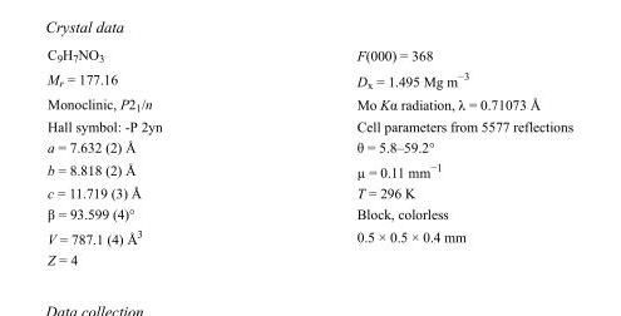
<table><tbody><tr><td>C<sub>9</sub>H<sub>7</sub>NO<sub>3</sub></td><td>F(000) = 368</td></tr><tr><td>M<sub>r</sub> = 177.16</td><td>D<sub>x</sub> = 1.495 Mg m<sup>−3</sup></td></tr><tr><td>Monoclinic, P2<sub>1</sub>/n</td><td>Mo Kα radiation, λ = 0.71073 Å</td></tr><tr><td>Hall symbol: -P 2yn</td><td>Cell parameters from 5577 reflections</td></tr><tr><td>a = 7.632 (2) Å</td><td>θ = 5.8–59.2°</td></tr><tr><td>b = 8.818 (2) Å</td><td>µ = 0.11 mm<sup>−1</sup></td></tr><tr><td>c = 11.719 (3) Å</td><td>T = 296 K</td></tr><tr><td>β = 93.599 (4)°</td><td>Block, colorless</td></tr><tr><td>V = 787.1 (4) Å<sup>3</sup></td><td>0.5 × 0.5 × 0.4 mm</td></tr><tr><td>Z = 4</td><td></td></tr></tbody></table>